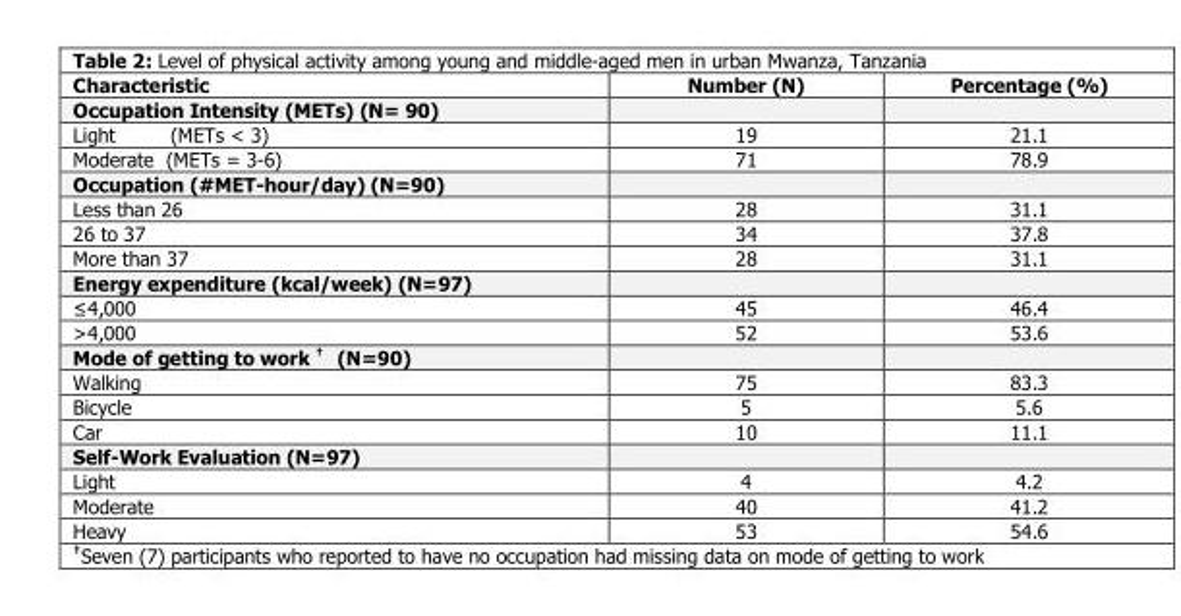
<table><thead><tr><td>Characteristic</td><td>Number (N)</td><td>Percentage (%)</td></tr></thead><tbody><tr><td colspan="3">Occupation Intensity (METs) (N= 90)</td></tr><tr><td>Light (METs &lt; 3)</td><td>19</td><td>21.1</td></tr><tr><td>Moderate (METs = 3-6)</td><td>71</td><td>78.9</td></tr><tr><td colspan="3">Occupation (#MET-hour/day) (N=90)</td></tr><tr><td>Less than 26</td><td>28</td><td>31.1</td></tr><tr><td>26 to 37</td><td>34</td><td>37.8</td></tr><tr><td>More than 37</td><td>28</td><td>31.1</td></tr><tr><td colspan="3">Energy expenditure (kcal/week) (N=97)</td></tr><tr><td>≤4,000</td><td>45</td><td>46.4</td></tr><tr><td>&gt;4,000</td><td>52</td><td>53.6</td></tr><tr><td colspan="3">Mode of getting to work † (N=90)</td></tr><tr><td>Walking</td><td>75</td><td>83.3</td></tr><tr><td>Bicycle</td><td>5</td><td>5.6</td></tr><tr><td>Car</td><td>10</td><td>11.1</td></tr><tr><td colspan="3">Self-Work Evaluation (N=97)</td></tr><tr><td>Light</td><td>4</td><td>4.2</td></tr><tr><td>Moderate</td><td>40</td><td>41.2</td></tr><tr><td>Heavy</td><td>53</td><td>54.6</td></tr></tbody></table>